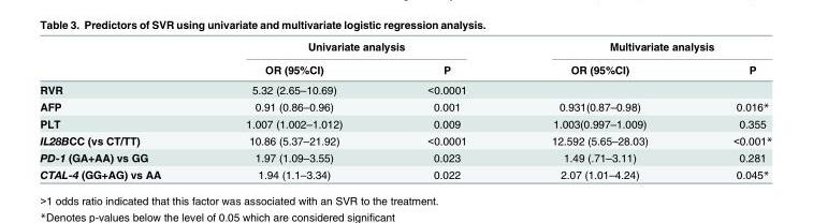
<table><thead><tr><td rowspan="2"></td><td colspan="2">Univariate analysis</td><td colspan="2">Multivariate analysis</td></tr><tr><td>OR (95%CI)</td><td>P</td><td>OR (95%CI)</td><td>P</td></tr></thead><tbody><tr><td>RVR</td><td>5.32 (2.65–10.69)</td><td>&lt;0.0001</td><td></td><td></td></tr><tr><td>AFP</td><td>0.91 (0.86–0.96)</td><td>0.001</td><td>0.931(0.87–0.98)</td><td>0.016*</td></tr><tr><td>PLT</td><td>1.007 (1.002–1.012)</td><td>0.009</td><td>1.003(0.997–1.009)</td><td>0.355</td></tr><tr><td>IL28BCC (vs CT/TT)</td><td>10.86 (5.37–21.92)</td><td>&lt;0.0001</td><td>12.592 (5.65–28.03)</td><td>&lt;0.001*</td></tr><tr><td>PD-1 (GA+AA) vs GG</td><td>1.97 (1.09–3.55)</td><td>0.023</td><td>1.49 (.71–3.11)</td><td>0.281</td></tr><tr><td>CTAL-4 (GG+AG) vs AA</td><td>1.94 (1.1–3.34)</td><td>0.022</td><td>2.07 (1.01–4.24)</td><td>0.045*</td></tr></tbody></table>